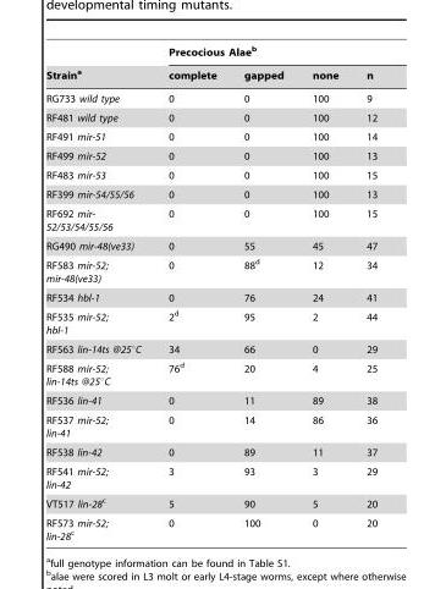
<table><thead><tr><td rowspan="2">Strain<sup>a</sup></td><td colspan="4">Precocious Alae<sup>b</sup></td></tr><tr><td>complete</td><td>gapped</td><td>none</td><td>n</td></tr></thead><tbody><tr><td>RG733 wild type</td><td>0</td><td>0</td><td>100</td><td>9</td></tr><tr><td>RF481 wild type</td><td>0</td><td>0</td><td>100</td><td>12</td></tr><tr><td>RF491 mir-51</td><td>0</td><td>0</td><td>100</td><td>14</td></tr><tr><td>RF499 mir-52</td><td>0</td><td>0</td><td>100</td><td>13</td></tr><tr><td>RF483 mir-53</td><td>0</td><td>0</td><td>100</td><td>15</td></tr><tr><td>RF399 mir-54/55/56</td><td>0</td><td>0</td><td>100</td><td>13</td></tr><tr><td>RF692 mir- 52/53/54/55/56</td><td>0</td><td>0</td><td>100</td><td>15</td></tr><tr><td>RG490 mir-48(ve33)</td><td>0</td><td>55</td><td>45</td><td>47</td></tr><tr><td>RF583 mir-52; mir-48(ve33)</td><td>0</td><td>88<sup>d</sup></td><td>12</td><td>34</td></tr><tr><td>RF534 hbl-1</td><td>0</td><td>76</td><td>24</td><td>41</td></tr><tr><td>RF535 mir-52; hbl-1</td><td>2<sup>d</sup></td><td>95</td><td>2</td><td>44</td></tr><tr><td>RF563 lin-14ts @25°C</td><td>34</td><td>66</td><td>0</td><td>29</td></tr><tr><td>RF588 mir-52; lin-14ts @25°C</td><td>76<sup>d</sup></td><td>20</td><td>4</td><td>25</td></tr><tr><td>RF536 lin-41</td><td>0</td><td>11</td><td>89</td><td>38</td></tr><tr><td>RF537 mir-52; lin-41</td><td>0</td><td>14</td><td>86</td><td>36</td></tr><tr><td>RF538 lin-42</td><td>0</td><td>89</td><td>11</td><td>37</td></tr><tr><td>RF541 mir-52; lin-42</td><td>3</td><td>93</td><td>3</td><td>29</td></tr><tr><td>VT517 lin-28c</td><td>5</td><td>90</td><td>5</td><td>20</td></tr><tr><td>RF573 mir-52; lin-28c</td><td>0</td><td>100</td><td>0</td><td>20</td></tr></tbody></table>